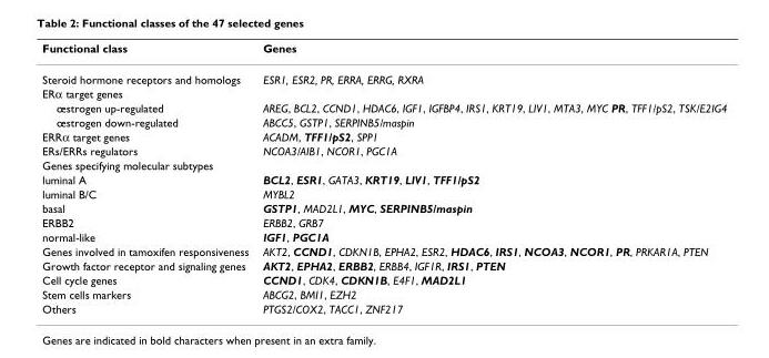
<table><thead><tr><td>Functional class</td><td>Genes</td></tr></thead><tbody><tr><td>Steroid hormone receptors and homologs</td><td>ESR1, ESR2, PR, ERRA, ERRG, RXRA</td></tr><tr><td colspan="2">ERα target genes</td></tr><tr><td>œstrogen up-regulated</td><td>AREG, BCL2, CCND1, HDAC6, IGF1, IGFBP4, IRS1, KRT19, LIV1, MTA3, MYC PR, TFF1/pS2, TSK/E2IG4</td></tr><tr><td>œstrogen down-regulated</td><td>ABCC5, GSTP1, SERPINB5/maspin</td></tr><tr><td>ERRα target genes</td><td>ACADM, TFF1/pS2, SPP1</td></tr><tr><td>ERs/ERRs regulators</td><td>NCOA3/AIB1, NCOR1, PGC1A</td></tr><tr><td colspan="2">Genes specifying molecular subtypes</td></tr><tr><td>luminal A</td><td>BCL2, ESR1, GATA3, KRT19, LIV1, TFF1/pS2</td></tr><tr><td>luminal B/C</td><td>MYBL2</td></tr><tr><td>basal</td><td>GSTP1, MAD2L1, MYC, SERPINB5/maspin</td></tr><tr><td>ERBB2</td><td>ERBB2, GRB7</td></tr><tr><td>normal-like</td><td>IGF1, PGC1A</td></tr><tr><td>Genes involved in tamoxifen responsiveness</td><td>AKT2, CCND1, CDKN1B, EPHA2, ESR2, HDAC6, IRS1, NCOA3, NCOR1, PR, PRKAR1A, PTEN</td></tr><tr><td>Growth factor receptor and signaling genes</td><td>AKT2, EPHA2, ERBB2, ERBB4, IGF1R, IRS1, PTEN</td></tr><tr><td>Cell cycle genes</td><td>CCND1, CDK4, CDKN1B, E4F1, MAD2L1</td></tr><tr><td>Stem cells markers</td><td>ABCG2, BMI1, EZH2</td></tr><tr><td>Others</td><td>PTGS2/COX2, TACC1, ZNF217</td></tr></tbody></table>